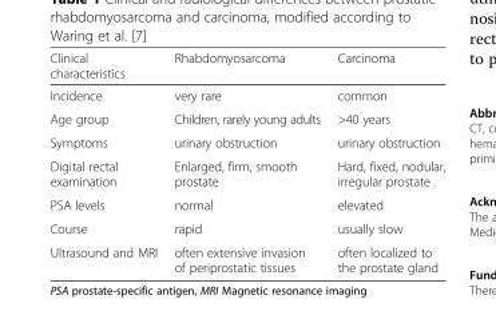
<table><thead><tr><td>Clinical characteristics</td><td>Rhabdomyosarcoma</td><td>Carcinoma</td></tr></thead><tbody><tr><td>Incidence</td><td>very rare</td><td>common</td></tr><tr><td>Age group</td><td>Children, rarely young adults</td><td>&gt;40 years</td></tr><tr><td>Symptoms</td><td>urinary obstruction</td><td>urinary obstruction</td></tr><tr><td>Digital rectal examination</td><td>Enlarged, firm, smooth prostate</td><td>Hard, fixed, nodular, irregular prostate</td></tr><tr><td>PSA levels</td><td>normal</td><td>elevated</td></tr><tr><td>Course</td><td>rapid</td><td>usually slow</td></tr><tr><td>Ultrasound and MRI</td><td>often extensive invasion of periprostatic tissues</td><td>often localized to the prostate gland</td></tr></tbody></table>